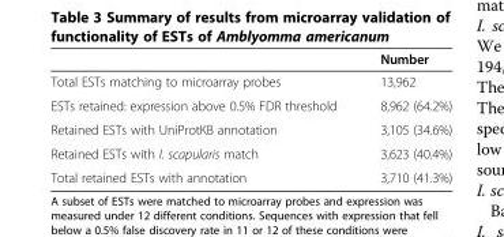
<table><thead><tr><td></td><td>Number</td></tr></thead><tbody><tr><td>Total ESTs matching to microarray probes</td><td>13,962</td></tr><tr><td>ESTs retained: expression above 0.5% FDR threshold</td><td>8,962 (64.2%)</td></tr><tr><td>Retained ESTs with UniProtKB annotation</td><td>3,105 (34.6%)</td></tr><tr><td>Retained ESTs with I. scapularis match</td><td>3,623 (40.4%)</td></tr><tr><td>Total retained ESTs with annotation</td><td>3,710 (41.3%)</td></tr></tbody></table>